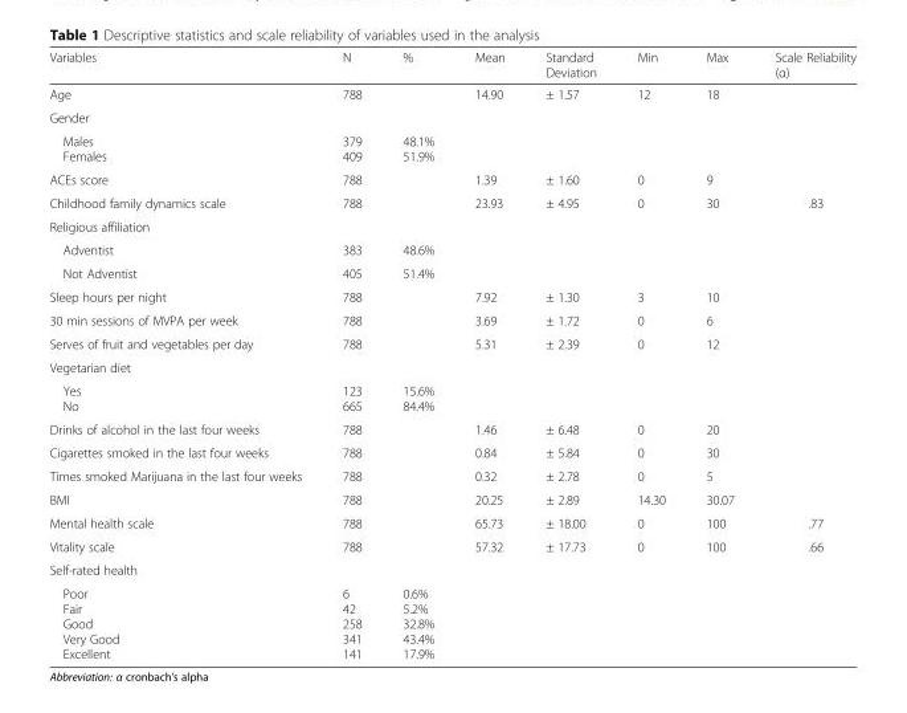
<table><thead><tr><td>Variables</td><td>N</td><td>%</td><td>Mean</td><td>Standard Deviation</td><td>Min</td><td>Max</td><td>Scale Reliability (α)</td></tr></thead><tbody><tr><td>Age</td><td>788</td><td></td><td>14.90</td><td>± 1.57</td><td>12</td><td>18</td><td></td></tr><tr><td colspan="8">Gender</td></tr><tr><td>Males Females</td><td>379 409</td><td>48.1% 51.9%</td><td></td><td></td><td></td><td></td><td></td></tr><tr><td>ACEs score</td><td>788</td><td></td><td>1.39</td><td>± 1.60</td><td>0</td><td>9</td><td></td></tr><tr><td>Childhood family dynamics scale</td><td>788</td><td></td><td>23.93</td><td>± 4.95</td><td>0</td><td>30</td><td>.83</td></tr><tr><td colspan="8">Religious affiliation</td></tr><tr><td>Adventist</td><td>383</td><td>48.6%</td><td></td><td></td><td></td><td></td><td></td></tr><tr><td>Not Adventist</td><td>405</td><td>51.4%</td><td></td><td></td><td></td><td></td><td></td></tr><tr><td>Sleep hours per night</td><td>788</td><td></td><td>7.92</td><td>± 1.30</td><td>3</td><td>10</td><td></td></tr><tr><td>30 min sessions of MVPA per week</td><td>788</td><td></td><td>3.69</td><td>± 1.72</td><td>0</td><td>6</td><td></td></tr><tr><td>Serves of fruit and vegetables per day</td><td>788</td><td></td><td>5.31</td><td>± 2.39</td><td>0</td><td>12</td><td></td></tr><tr><td colspan="8">Vegetarian diet</td></tr><tr><td>Yes No</td><td>123 665</td><td>15.6% 84.4%</td><td></td><td></td><td></td><td></td><td></td></tr><tr><td>Drinks of alcohol in the last four weeks</td><td>788</td><td></td><td>1.46</td><td>± 6.48</td><td>0</td><td>20</td><td></td></tr><tr><td>Cigarettes smoked in the last four weeks</td><td>788</td><td></td><td>0.84</td><td>± 5.84</td><td>0</td><td>30</td><td></td></tr><tr><td>Times smoked Marijuana in the last four weeks</td><td>788</td><td></td><td>0.32</td><td>± 2.78</td><td>0</td><td>5</td><td></td></tr><tr><td>BMI</td><td>788</td><td></td><td>20.25</td><td>± 2.89</td><td>14.30</td><td>30.07</td><td></td></tr><tr><td>Mental health scale</td><td>788</td><td></td><td>65.73</td><td>± 18.00</td><td>0</td><td>100</td><td>.77</td></tr><tr><td>Vitality scale</td><td>788</td><td></td><td>57.32</td><td>± 17.73</td><td>0</td><td>100</td><td>.66</td></tr><tr><td colspan="8">Self-rated health</td></tr><tr><td>Poor Fair Good Very Good Excellent</td><td>6 42 258 341 141</td><td>0.6% 5.2% 32.8% 43.4% 17.9%</td><td></td><td></td><td></td><td></td><td></td></tr></tbody></table>